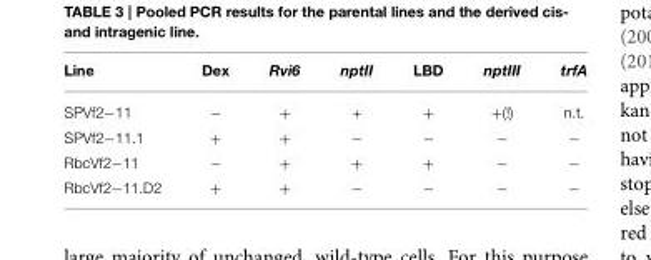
<table><thead><tr><td>Line</td><td>Dex</td><td>Rvi6</td><td>nptII</td><td>LBD</td><td>nptIII</td><td>trfA</td></tr></thead><tbody><tr><td>SPVf2−11</td><td>−</td><td>+</td><td>+</td><td>+</td><td>+(!)</td><td>n.t.</td></tr><tr><td>SPVf2−11.1</td><td>+</td><td>+</td><td>−</td><td>−</td><td>−</td><td>−</td></tr><tr><td>RbcVf2−11</td><td>−</td><td>+</td><td>+</td><td>+</td><td>−</td><td>−</td></tr><tr><td>RbcVf2−11.D2</td><td>+</td><td>+</td><td>−</td><td>−</td><td>−</td><td>−</td></tr></tbody></table>